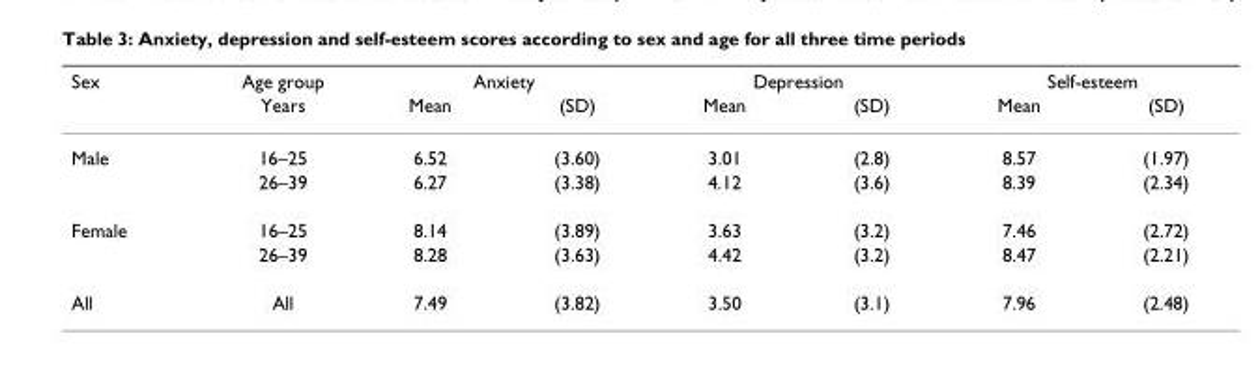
<table><thead><tr><td rowspan="2">Sex</td><td rowspan="2">Age group Years</td><td colspan="2">Anxiety</td><td colspan="2">Depression</td><td colspan="2">Self-esteem</td></tr><tr><td>Mean</td><td>(SD)</td><td>Mean</td><td>(SD)</td><td>Mean</td><td>(SD)</td></tr></thead><tbody><tr><td rowspan="2">Male</td><td>16–25</td><td>6.52</td><td>(3.60)</td><td>3.01</td><td>(2.8)</td><td>8.57</td><td>(1.97)</td></tr><tr><td>26–39</td><td>6.27</td><td>(3.38)</td><td>4.12</td><td>(3.6)</td><td>8.39</td><td>(2.34)</td></tr><tr><td rowspan="2">Female</td><td>16–25</td><td>8.14</td><td>(3.89)</td><td>3.63</td><td>(3.2)</td><td>7.46</td><td>(2.72)</td></tr><tr><td>26–39</td><td>8.28</td><td>(3.63)</td><td>4.42</td><td>(3.2)</td><td>8.47</td><td>(2.21)</td></tr><tr><td>All</td><td>All</td><td>7.49</td><td>(3.82)</td><td>3.50</td><td>(3.1)</td><td>7.96</td><td>(2.48)</td></tr></tbody></table>